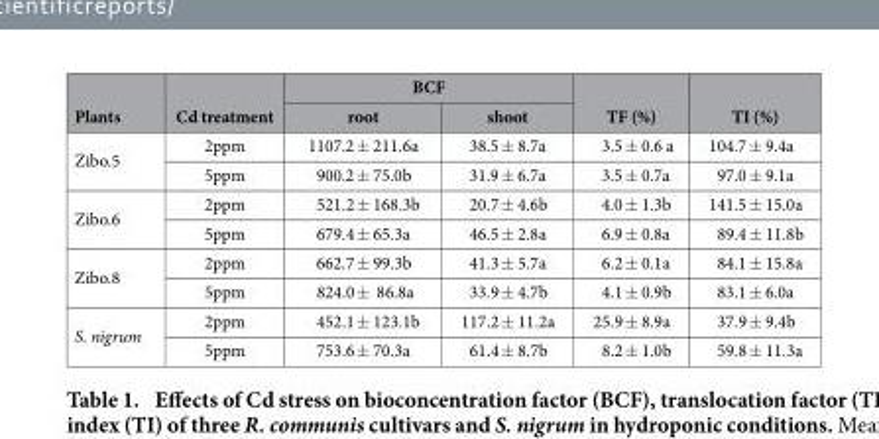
<table><thead><tr><td rowspan="2">Plants</td><td rowspan="2">Cd treatment</td><td colspan="2">BCF</td><td rowspan="2">TF (%)</td><td rowspan="2">TI (%)</td></tr><tr><td>root</td><td>shoot</td></tr></thead><tbody><tr><td rowspan="2">Zibo.5</td><td>2ppm</td><td>1107.2 ± 211.6a</td><td>38.5 ± 8.7a</td><td>3.5 ± 0.6 a</td><td>104.7 ± 9.4a</td></tr><tr><td>5ppm</td><td>900.2 ± 75.0b</td><td>31.9 ± 6.7a</td><td>3.5 ± 0.7a</td><td>97.0 ± 9.1a</td></tr><tr><td rowspan="2">Zibo.6</td><td>2ppm</td><td>521.2 ± 168.3b</td><td>20.7 ± 4.6b</td><td>4.0 ± 1.3b</td><td>141.5 ± 15.0a</td></tr><tr><td>5ppm</td><td>679.4 ± 65.3a</td><td>46.5 ± 2.8a</td><td>6.9 ± 0.8a</td><td>89.4 ± 11.8b</td></tr><tr><td rowspan="2">Zibo.8</td><td>2ppm</td><td>662.7 ± 99.3b</td><td>41.3 ± 5.7a</td><td>6.2 ± 0.1a</td><td>84.1 ± 15.8a</td></tr><tr><td>5ppm</td><td>824.0 ± 86.8a</td><td>33.9 ± 4.7b</td><td>4.1 ± 0.9b</td><td>83.1 ± 6.0a</td></tr><tr><td rowspan="2">S. nigrum</td><td>2ppm</td><td>452.1 ± 123.1b</td><td>117.2 ± 11.2a</td><td>25.9 ± 8.9a</td><td>37.9 ± 9.4b</td></tr><tr><td>5ppm</td><td>753.6 ± 70.3a</td><td>61.4 ± 8.7b</td><td>8.2 ± 1.0b</td><td>59.8 ± 11.3a</td></tr></tbody></table>